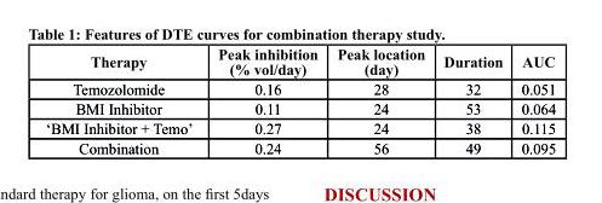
<table><thead><tr><td>therapy</td><td>Peak inhibition (% vol/day)</td><td>Peak location (day)</td><td>duration</td><td>Auc</td></tr></thead><tbody><tr><td>Temozolomide</td><td>0.16</td><td>28</td><td>32</td><td>0.051</td></tr><tr><td>BMI Inhibitor</td><td>0.11</td><td>24</td><td>53</td><td>0.064</td></tr><tr><td>‘BMI Inhibitor + Temo’</td><td>0.27</td><td>24</td><td>38</td><td>0.115</td></tr><tr><td>Combination</td><td>0.24</td><td>56</td><td>49</td><td>0.095</td></tr></tbody></table>